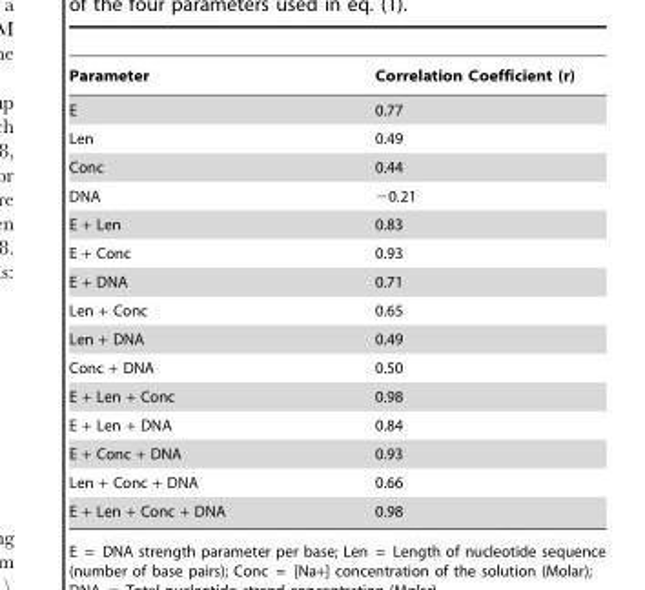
<table><thead><tr><td>Parameter</td><td>Correlation Coefficient (r)</td></tr></thead><tbody><tr><td>E</td><td>0.77</td></tr><tr><td>Len</td><td>0.49</td></tr><tr><td>Conc</td><td>0.44</td></tr><tr><td>DNA</td><td>−0.21</td></tr><tr><td>E + Len</td><td>0.83</td></tr><tr><td>E + Conc</td><td>0.93</td></tr><tr><td>E + DNA</td><td>0.71</td></tr><tr><td>Len + Conc</td><td>0.65</td></tr><tr><td>Len + DNA</td><td>0.49</td></tr><tr><td>Conc + DNA</td><td>0.50</td></tr><tr><td>E + Len + Conc</td><td>0.98</td></tr><tr><td>E + Len + DNA</td><td>0.84</td></tr><tr><td>E + Conc + DNA</td><td>0.93</td></tr><tr><td>Len + Conc + DNA</td><td>0.66</td></tr><tr><td>E + Len + Conc + DNA</td><td>0.98</td></tr></tbody></table>